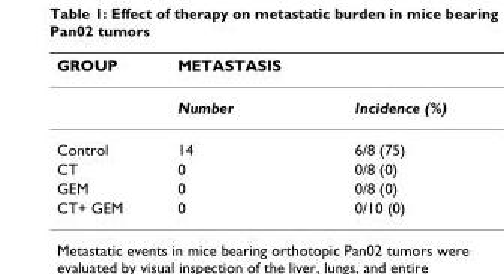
<table><thead><tr><td>GROUP</td><td>METASTASIS</td><td></td></tr></thead><tbody><tr><td></td><td>Number</td><td>Incidence (%)</td></tr><tr><td>Control</td><td>14</td><td>6/8 (75)</td></tr><tr><td>CT</td><td>0</td><td>0/8 (0)</td></tr><tr><td>GEM</td><td>0</td><td>0/8 (0)</td></tr><tr><td>CT+ GEM</td><td>0</td><td>0/10 (0)</td></tr></tbody></table>